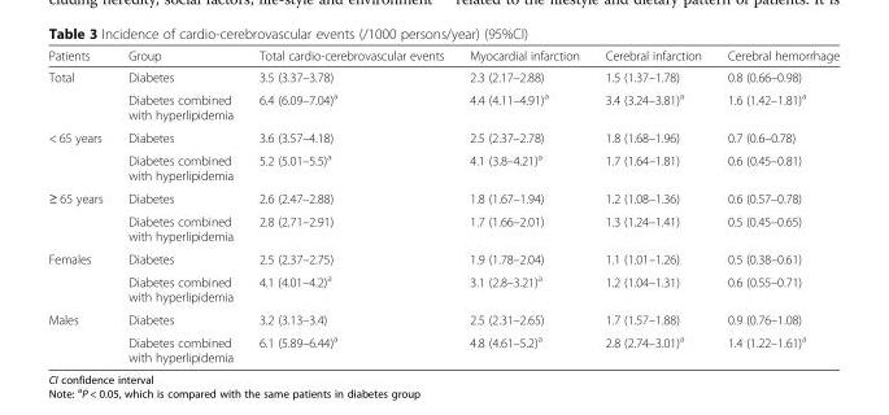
<table><thead><tr><td>Patients</td><td>Group</td><td>Total cardio-cerebrovascular events</td><td>Myocardial infarction</td><td>Cerebral infarction</td><td>Cerebral hemorrhage</td></tr></thead><tbody><tr><td rowspan="2">Total</td><td>Diabetes</td><td>3.5 (3.37–3.78)</td><td>2.3 (2.17–2.88)</td><td>1.5 (1.37–1.78)</td><td>0.8 (0.66–0.98)</td></tr><tr><td>Diabetes combined with hyperlipidemia</td><td>6.4 (6.09–7.04)<sup>a</sup></td><td>4.4 (4.11–4.91)<sup>a</sup></td><td>3.4 (3.24–3.81)<sup>a</sup></td><td>1.6 (1.42–1.81)<sup>a</sup></td></tr><tr><td rowspan="2">&lt; 65 years</td><td>Diabetes</td><td>3.6 (3.57–4.18)</td><td>2.5 (2.37–2.78)</td><td>1.8 (1.68–1.96)</td><td>0.7 (0.6–0.78)</td></tr><tr><td>Diabetes combined with hyperlipidemia</td><td>5.2 (5.01–5.5)<sup>a</sup></td><td>4.1 (3.8–4.21)<sup>a</sup></td><td>1.7 (1.64–1.81)</td><td>0.6 (0.45–0.81)</td></tr><tr><td rowspan="2">≥ 65 years</td><td>Diabetes</td><td>2.6 (2.47–2.88)</td><td>1.8 (1.67–1.94)</td><td>1.2 (1.08–1.36)</td><td>0.6 (0.57–0.78)</td></tr><tr><td>Diabetes combined with hyperlipidemia</td><td>2.8 (2.71–2.91)</td><td>1.7 (1.66–2.01)</td><td>1.3 (1.24–1.41)</td><td>0.5 (0.45–0.65)</td></tr><tr><td rowspan="2">Females</td><td>Diabetes</td><td>2.5 (2.37–2.75)</td><td>1.9 (1.78–2.04)</td><td>1.1 (1.01–1.26)</td><td>0.5 (0.38–0.61)</td></tr><tr><td>Diabetes combined with hyperlipidemia</td><td>4.1 (4.01–4.2)<sup>a</sup></td><td>3.1 (2.8–3.21)<sup>a</sup></td><td>1.2 (1.04–1.31)</td><td>0.6 (0.55–0.71)</td></tr><tr><td rowspan="2">Males</td><td>Diabetes</td><td>3.2 (3.13–3.4)</td><td>2.5 (2.31–2.65)</td><td>1.7 (1.57–1.88)</td><td>0.9 (0.76–1.08)</td></tr><tr><td>Diabetes combined with hyperlipidemia</td><td>6.1 (5.89–6.44)<sup>a</sup></td><td>4.8 (4.61–5.2)<sup>a</sup></td><td>2.8 (2.74–3.01)<sup>a</sup></td><td>1.4 (1.22–1.61)<sup>a</sup></td></tr></tbody></table>